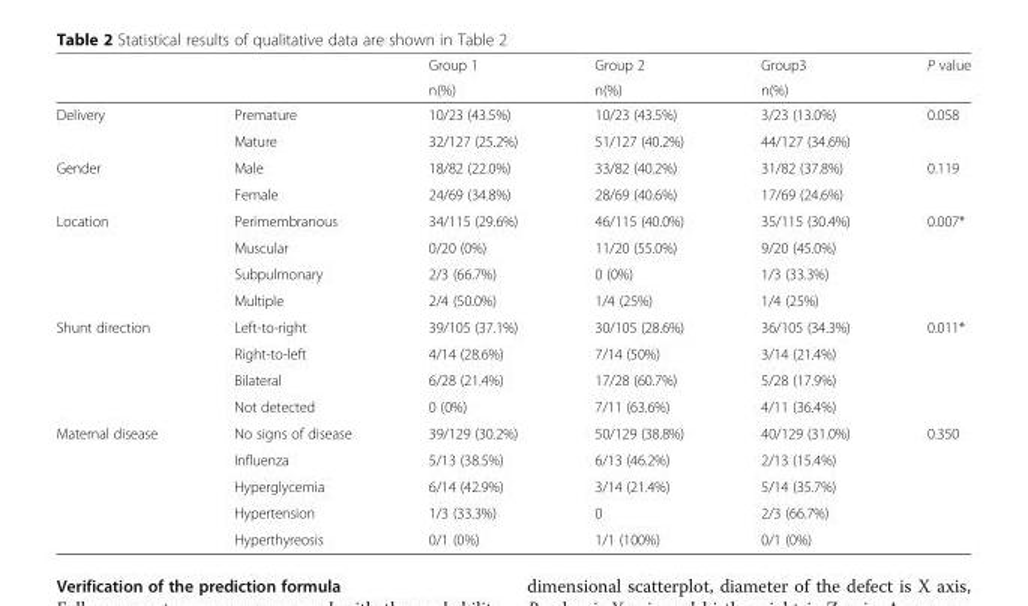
<table><thead><tr><td rowspan="2"></td><td rowspan="2"></td><td rowspan="2">Group 1 n(%)</td><td rowspan="2">Group 2 n(%)</td><td rowspan="2">Group3 n(%)</td><td rowspan="2">P value</td></tr><tr></tr></thead><tbody><tr><td rowspan="2">Delivery</td><td>Premature</td><td>10/23 (43.5%)</td><td>10/23 (43.5%)</td><td>3/23 (13.0%)</td><td>0.058</td></tr><tr><td>Mature</td><td>32/127 (25.2%)</td><td>51/127 (40.2%)</td><td>44/127 (34.6%)</td><td></td></tr><tr><td rowspan="2">Gender</td><td>Male</td><td>18/82 (22.0%)</td><td>33/82 (40.2%)</td><td>31/82 (37.8%)</td><td>0.119</td></tr><tr><td>Female</td><td>24/69 (34.8%)</td><td>28/69 (40.6%)</td><td>17/69 (24.6%)</td><td></td></tr><tr><td rowspan="4">Location</td><td>Perimembranous</td><td>34/115 (29.6%)</td><td>46/115 (40.0%)</td><td>35/115 (30.4%)</td><td>0.007*</td></tr><tr><td>Muscular</td><td>0/20 (0%)</td><td>11/20 (55.0%)</td><td>9/20 (45.0%)</td><td></td></tr><tr><td>Subpulmonary</td><td>2/3 (66.7%)</td><td>0 (0%)</td><td>1/3 (33.3%)</td><td></td></tr><tr><td>Multiple</td><td>2/4 (50.0%)</td><td>1/4 (25%)</td><td>1/4 (25%)</td><td></td></tr><tr><td rowspan="4">Shunt direction</td><td>Left-to-right</td><td>39/105 (37.1%)</td><td>30/105 (28.6%)</td><td>36/105 (34.3%)</td><td>0.011*</td></tr><tr><td>Right-to-left</td><td>4/14 (28.6%)</td><td>7/14 (50%)</td><td>3/14 (21.4%)</td><td></td></tr><tr><td>Bilateral</td><td>6/28 (21.4%)</td><td>17/28 (60.7%)</td><td>5/28 (17.9%)</td><td></td></tr><tr><td>Not detected</td><td>0 (0%)</td><td>7/11 (63.6%)</td><td>4/11 (36.4%)</td><td></td></tr><tr><td rowspan="5">Maternal disease</td><td>No signs of disease</td><td>39/129 (30.2%)</td><td>50/129 (38.8%)</td><td>40/129 (31.0%)</td><td>0.350</td></tr><tr><td>Influenza</td><td>5/13 (38.5%)</td><td>6/13 (46.2%)</td><td>2/13 (15.4%)</td><td></td></tr><tr><td>Hyperglycemia</td><td>6/14 (42.9%)</td><td>3/14 (21.4%)</td><td>5/14 (35.7%)</td><td></td></tr><tr><td>Hypertension</td><td>1/3 (33.3%)</td><td>0</td><td>2/3 (66.7%)</td><td></td></tr><tr><td>Hyperthyreosis</td><td>0/1 (0%)</td><td>1/1 (100%)</td><td>0/1 (0%)</td><td></td></tr></tbody></table>